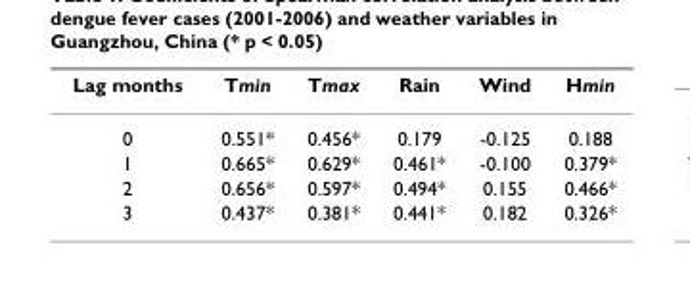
<table><thead><tr><td>Lag months</td><td>Tmin</td><td>Tmax</td><td>Rain</td><td>Wind</td><td>Hmin</td></tr></thead><tbody><tr><td>0</td><td>0.551*</td><td>0.456*</td><td>0.179</td><td>-0.125</td><td>0.188</td></tr><tr><td>1</td><td>0.665*</td><td>0.629*</td><td>0.461*</td><td>-0.100</td><td>0.379*</td></tr><tr><td>2</td><td>0.656*</td><td>0.597*</td><td>0.494*</td><td>0.155</td><td>0.466*</td></tr><tr><td>3</td><td>0.437*</td><td>0.381*</td><td>0.441*</td><td>0.182</td><td>0.326*</td></tr></tbody></table>